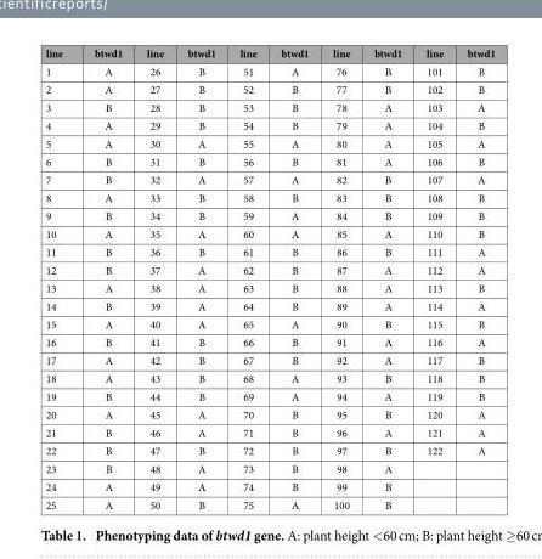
<table><thead><tr><td>line</td><td>btwd1</td><td>line</td><td>btwd1</td><td>line</td><td>btwd1</td><td>line</td><td>btwd1</td><td>line</td><td>btwd1</td></tr></thead><tbody><tr><td>1</td><td>A</td><td>26</td><td>B</td><td>51</td><td>A</td><td>76</td><td>B</td><td>101</td><td>B</td></tr><tr><td>2</td><td>A</td><td>27</td><td>B</td><td>52</td><td>B</td><td>77</td><td>B</td><td>102</td><td>B</td></tr><tr><td>3</td><td>B</td><td>28</td><td>B</td><td>53</td><td>B</td><td>78</td><td>A</td><td>103</td><td>A</td></tr><tr><td>4</td><td>A</td><td>29</td><td>B</td><td>54</td><td>B</td><td>79</td><td>A</td><td>104</td><td>B</td></tr><tr><td>5</td><td>A</td><td>30</td><td>A</td><td>55</td><td>A</td><td>80</td><td>A</td><td>105</td><td>A</td></tr><tr><td>6</td><td>B</td><td>31</td><td>B</td><td>56</td><td>B</td><td>81</td><td>A</td><td>106</td><td>B</td></tr><tr><td>7</td><td>B</td><td>32</td><td>A</td><td>57</td><td>A</td><td>82</td><td>B</td><td>107</td><td>A</td></tr><tr><td>8</td><td>A</td><td>33</td><td>B</td><td>58</td><td>B</td><td>83</td><td>B</td><td>108</td><td>B</td></tr><tr><td>9</td><td>B</td><td>34</td><td>B</td><td>59</td><td>A</td><td>84</td><td>B</td><td>109</td><td>B</td></tr><tr><td>10</td><td>A</td><td>35</td><td>A</td><td>60</td><td>A</td><td>85</td><td>A</td><td>110</td><td>B</td></tr><tr><td>11</td><td>B</td><td>36</td><td>B</td><td>61</td><td>B</td><td>86</td><td>B</td><td>111</td><td>A</td></tr><tr><td>12</td><td>B</td><td>37</td><td>A</td><td>62</td><td>B</td><td>87</td><td>A</td><td>112</td><td>A</td></tr><tr><td>13</td><td>A</td><td>38</td><td>A</td><td>63</td><td>B</td><td>88</td><td>A</td><td>113</td><td>B</td></tr><tr><td>14</td><td>B</td><td>39</td><td>A</td><td>64</td><td>B</td><td>89</td><td>A</td><td>114</td><td>A</td></tr><tr><td>15</td><td>A</td><td>40</td><td>A</td><td>65</td><td>A</td><td>90</td><td>B</td><td>115</td><td>B</td></tr><tr><td>16</td><td>B</td><td>41</td><td>B</td><td>66</td><td>B</td><td>91</td><td>A</td><td>116</td><td>A</td></tr><tr><td>17</td><td>A</td><td>42</td><td>B</td><td>67</td><td>B</td><td>92</td><td>A</td><td>117</td><td>B</td></tr><tr><td>18</td><td>A</td><td>43</td><td>B</td><td>68</td><td>A</td><td>93</td><td>B</td><td>118</td><td>B</td></tr><tr><td>19</td><td>B</td><td>44</td><td>B</td><td>69</td><td>A</td><td>94</td><td>A</td><td>119</td><td>B</td></tr><tr><td>20</td><td>A</td><td>45</td><td>A</td><td>70</td><td>B</td><td>95</td><td>B</td><td>120</td><td>A</td></tr><tr><td>21</td><td>B</td><td>46</td><td>A</td><td>71</td><td>B</td><td>96</td><td>A</td><td>121</td><td>A</td></tr><tr><td>22</td><td>B</td><td>47</td><td>B</td><td>72</td><td>B</td><td>97</td><td>B</td><td>122</td><td>A</td></tr><tr><td>23</td><td>B</td><td>48</td><td>A</td><td>73</td><td>B</td><td>98</td><td>A</td><td></td><td></td></tr><tr><td>24</td><td>A</td><td>49</td><td>A</td><td>74</td><td>B</td><td>99</td><td>B</td><td></td><td></td></tr><tr><td>25</td><td>A</td><td>50</td><td>B</td><td>75</td><td>A</td><td>100</td><td>B</td><td></td><td></td></tr></tbody></table>